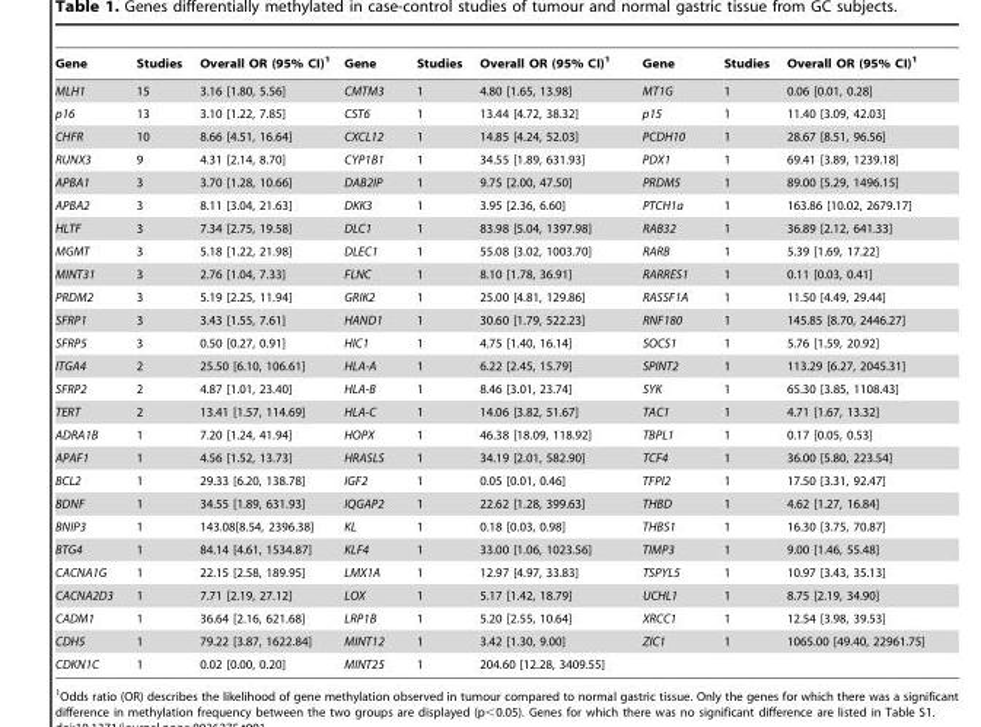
<table><thead><tr><td>Gene</td><td>Studies</td><td>Overall OR (95% CI)<sup>1</sup></td><td>Gene</td><td>Studies</td><td>Overall OR (95% CI)<sup>1</sup></td><td>Gene</td><td>Studies</td><td>Overall OR (95% CI)<sup>1</sup></td></tr></thead><tbody><tr><td>MLH1</td><td>15</td><td>3.16 [1.80, 5.56]</td><td>CMTM3</td><td>1</td><td>4.80 [1.65, 13.98]</td><td>MT1G</td><td>1</td><td>0.06 [0.01, 0.28]</td></tr><tr><td>p16</td><td>13</td><td>3.10 [1.22, 7.85]</td><td>CST6</td><td>1</td><td>13.44 [4.72, 38.32]</td><td>p15</td><td>1</td><td>11.40 [3.09, 42.03]</td></tr><tr><td>CHFR</td><td>10</td><td>8.66 [4.51, 16.64]</td><td>CXCL12</td><td>1</td><td>14.85 [4.24, 52.03]</td><td>PCDH10</td><td>1</td><td>28.67 [8.51, 96.56]</td></tr><tr><td>RUNX3</td><td>9</td><td>4.31 [2.14, 8.70]</td><td>CYP1B1</td><td>1</td><td>34.55 [1.89, 631.93]</td><td>PDX1</td><td>1</td><td>69.41 [3.89, 1239.18]</td></tr><tr><td>APBA1</td><td>3</td><td>3.70 [1.28, 10.66]</td><td>DAB2IP</td><td>1</td><td>9.75 [2.00, 47.50]</td><td>PRDM5</td><td>1</td><td>89.00 [5.29, 1496.15]</td></tr><tr><td>APBA2</td><td>3</td><td>8.11 [3.04, 21.63]</td><td>DKK3</td><td>1</td><td>3.95 [2.36, 6.60]</td><td>PTCH1a</td><td>1</td><td>163.86 [10.02, 2679.17]</td></tr><tr><td>HLTF</td><td>3</td><td>7.34 [2.75, 19.58]</td><td>DLC1</td><td>1</td><td>83.98 [5.04, 1397.98]</td><td>RAB32</td><td>1</td><td>36.89 [2.12, 641.33]</td></tr><tr><td>MGMT</td><td>3</td><td>5.18 [1.22, 21.98]</td><td>DLEC1</td><td>1</td><td>55.08 [3.02, 1003.70]</td><td>RARB</td><td>1</td><td>5.39 [1.69, 17.22]</td></tr><tr><td>MINT31</td><td>3</td><td>2.76 [1.04, 7.33]</td><td>FLNC</td><td>1</td><td>8.10 [1.78, 36.91]</td><td>RARRES1</td><td>1</td><td>0.11 [0.03, 0.41]</td></tr><tr><td>PRDM2</td><td>3</td><td>5.19 [2.25, 11.94]</td><td>GRIK2</td><td>1</td><td>25.00 [4.81, 129.86]</td><td>RASSF1A</td><td>1</td><td>11.50 [4.49, 29.44]</td></tr><tr><td>SFRP1</td><td>3</td><td>3.43 [1.55, 7.61]</td><td>HAND1</td><td>1</td><td>30.60 [1.79, 522.23]</td><td>RNF180</td><td>1</td><td>145.85 [8.70, 2446.27]</td></tr><tr><td>SFRP5</td><td>3</td><td>0.50 [0.27, 0.91]</td><td>HIC1</td><td>1</td><td>4.75 [1.40, 16.14]</td><td>SOCS1</td><td>1</td><td>5.76 [1.59, 20.92]</td></tr><tr><td>ITGA4</td><td>2</td><td>25.50 [6.10, 106.61]</td><td>HLA-A</td><td>1</td><td>6.22 [2.45, 15.79]</td><td>SPINT2</td><td>1</td><td>113.29 [6.27, 2045.31]</td></tr><tr><td>SFRP2</td><td>2</td><td>4.87 [1.01, 23.40]</td><td>HLA-B</td><td>1</td><td>8.46 [3.01, 23.74]</td><td>SYK</td><td>1</td><td>65.30 [3.85, 1108.43]</td></tr><tr><td>TERT</td><td>2</td><td>13.41 [1.57, 114.69]</td><td>HLA-C</td><td>1</td><td>14.06 [3.82, 51.67]</td><td>TAC1</td><td>1</td><td>4.71 [1.67, 13.32]</td></tr><tr><td>ADRA1B</td><td>1</td><td>7.20 [1.24, 41.94]</td><td>HOPX</td><td>1</td><td>46.38 [18.09, 118.92]</td><td>TBPL1</td><td>1</td><td>0.17 [0.05, 0.53]</td></tr><tr><td>APAF1</td><td>1</td><td>4.56 [1.52, 13.73]</td><td>HRASLS</td><td>1</td><td>34.19 [2.01, 582.90]</td><td>TCF4</td><td>1</td><td>36.00 [5.80, 223.54]</td></tr><tr><td>BCL2</td><td>1</td><td>29.33 [6.20, 138.78]</td><td>IGF2</td><td>1</td><td>0.05 [0.01, 0.46]</td><td>TFPI2</td><td>1</td><td>17.50 [3.31, 92.47]</td></tr><tr><td>BDNF</td><td>1</td><td>34.55 [1.89, 631.93]</td><td>IQGAP2</td><td>1</td><td>22.62 [1.28, 399.63]</td><td>THBD</td><td>1</td><td>4.62 [1.27, 16.84]</td></tr><tr><td>BNIP3</td><td>1</td><td>143.08[8.54, 2396.38]</td><td>KL</td><td>1</td><td>0.18 [0.03, 0.98]</td><td>THBS1</td><td>1</td><td>16.30 [3.75, 70.87]</td></tr><tr><td>BTG4</td><td>1</td><td>84.14 [4.61, 1534.87]</td><td>KLF4</td><td>1</td><td>33.00 [1.06, 1023.56]</td><td>TIMP3</td><td>1</td><td>9.00 [1.46, 55.48]</td></tr><tr><td>CACNA1G</td><td>1</td><td>22.15 [2.58, 189.95]</td><td>LMX1A</td><td>1</td><td>12.97 [4.97, 33.83]</td><td>TSPYL5</td><td>1</td><td>10.97 [3.43, 35.13]</td></tr><tr><td>CACNA2D3</td><td>1</td><td>7.71 [2.19, 27.12]</td><td>LOX</td><td>1</td><td>5.17 [1.42, 18.79]</td><td>UCHL1</td><td>1</td><td>8.75 [2.19, 34.90]</td></tr><tr><td>CADM1</td><td>1</td><td>36.64 [2.16, 621.68]</td><td>LRP1B</td><td>1</td><td>5.20 [2.55, 10.64]</td><td>XRCC1</td><td>1</td><td>12.54 [3.98, 39.53]</td></tr><tr><td>CDH5</td><td>1</td><td>79.22 [3.87, 1622.84]</td><td>MINT12</td><td>1</td><td>3.42 [1.30, 9.00]</td><td>ZIC1</td><td>1</td><td>1065.00 [49.40, 22961.75]</td></tr><tr><td>CDKN1C</td><td>1</td><td>0.02 [0.00, 0.20]</td><td>MINT25</td><td>1</td><td>204.60 [12.28, 3409.55]</td><td></td><td></td><td></td></tr></tbody></table>